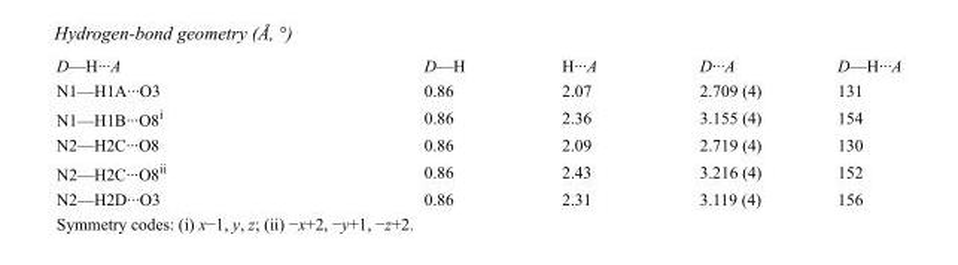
<table><tbody><tr><td>D—H···A</td><td>D—H</td><td>H···A</td><td>D···A</td><td>D—H···A</td></tr><tr><td>N1—H1A···O3</td><td>0.86</td><td>2.07</td><td>2.709 (4)</td><td>131</td></tr><tr><td>N1—H1B···O8<sup>i</sup></td><td>0.86</td><td>2.36</td><td>3.155 (4)</td><td>154</td></tr><tr><td>N2—H2C···O8</td><td>0.86</td><td>2.09</td><td>2.719 (4)</td><td>130</td></tr><tr><td>N2—H2C···O8<sup>ii</sup></td><td>0.86</td><td>2.43</td><td>3.216 (4)</td><td>152</td></tr><tr><td>N2—H2D···O3</td><td>0.86</td><td>2.31</td><td>3.119 (4)</td><td>156</td></tr></tbody></table>